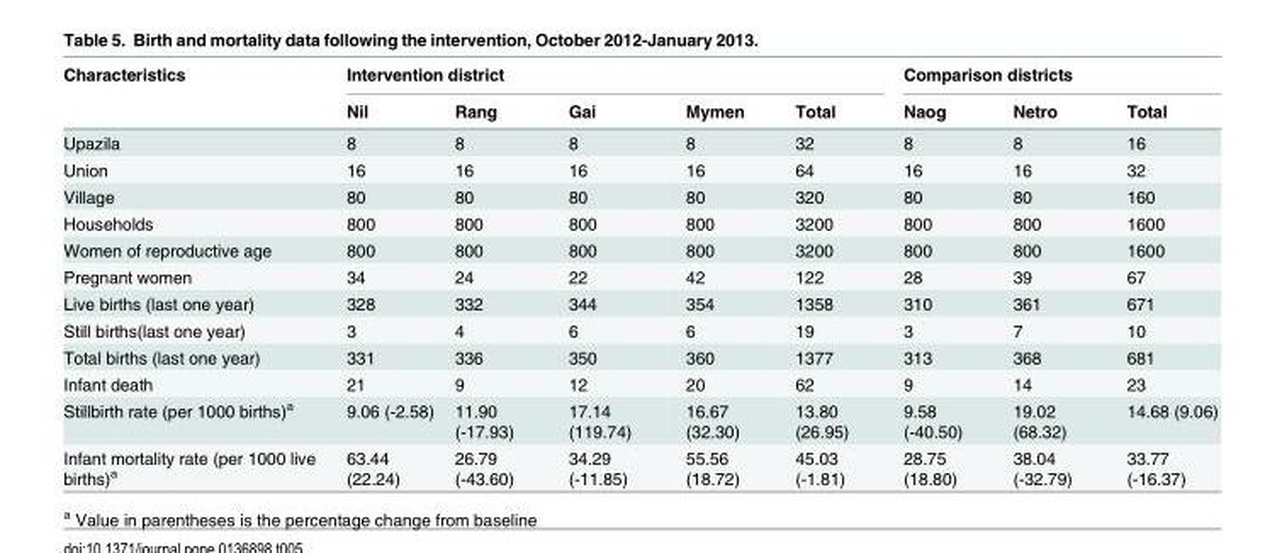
<table><thead><tr><td rowspan="2">Characteristics</td><td colspan="5">Intervention district</td><td colspan="3">Comparison districts</td></tr><tr><td>Nil</td><td>Rang</td><td>Gai</td><td>Mymen</td><td>Total</td><td>Naog</td><td>Netro</td><td>Total</td></tr></thead><tbody><tr><td>Upazila</td><td>8</td><td>8</td><td>8</td><td>8</td><td>32</td><td>8</td><td>8</td><td>16</td></tr><tr><td>Union</td><td>16</td><td>16</td><td>16</td><td>16</td><td>64</td><td>16</td><td>16</td><td>32</td></tr><tr><td>Village</td><td>80</td><td>80</td><td>80</td><td>80</td><td>320</td><td>80</td><td>80</td><td>160</td></tr><tr><td>Households</td><td>800</td><td>800</td><td>800</td><td>800</td><td>3200</td><td>800</td><td>800</td><td>1600</td></tr><tr><td>Women of reproductive age</td><td>800</td><td>800</td><td>800</td><td>800</td><td>3200</td><td>800</td><td>800</td><td>1600</td></tr><tr><td>Pregnant women</td><td>34</td><td>24</td><td>22</td><td>42</td><td>122</td><td>28</td><td>39</td><td>67</td></tr><tr><td>Live births (last one year)</td><td>328</td><td>332</td><td>344</td><td>354</td><td>1358</td><td>310</td><td>361</td><td>671</td></tr><tr><td>Still births(last one year)</td><td>3</td><td>4</td><td>6</td><td>6</td><td>19</td><td>3</td><td>7</td><td>10</td></tr><tr><td>Total births (last one year)</td><td>331</td><td>336</td><td>350</td><td>360</td><td>1377</td><td>313</td><td>368</td><td>681</td></tr><tr><td>Infant death</td><td>21</td><td>9</td><td>12</td><td>20</td><td>62</td><td>9</td><td>14</td><td>23</td></tr><tr><td>Stillbirth rate (per 1000 births)<sup>a</sup></td><td>9.06 (-2.58)</td><td>11.90 (-17.93)</td><td>17.14 (119.74)</td><td>16.67 (32.30)</td><td>13.80 (26.95)</td><td>9.58 (-40.50)</td><td>19.02 (68.32)</td><td>14.68 (9.06)</td></tr><tr><td>Infant mortality rate (per 1000 live births)<sup>a</sup></td><td>63.44 (22.24)</td><td>26.79 (-43.60)</td><td>34.29 (-11.85)</td><td>55.56 (18.72)</td><td>45.03 (-1.81)</td><td>28.75 (18.80)</td><td>38.04 (-32.79)</td><td>33.77 (-16.37)</td></tr></tbody></table>